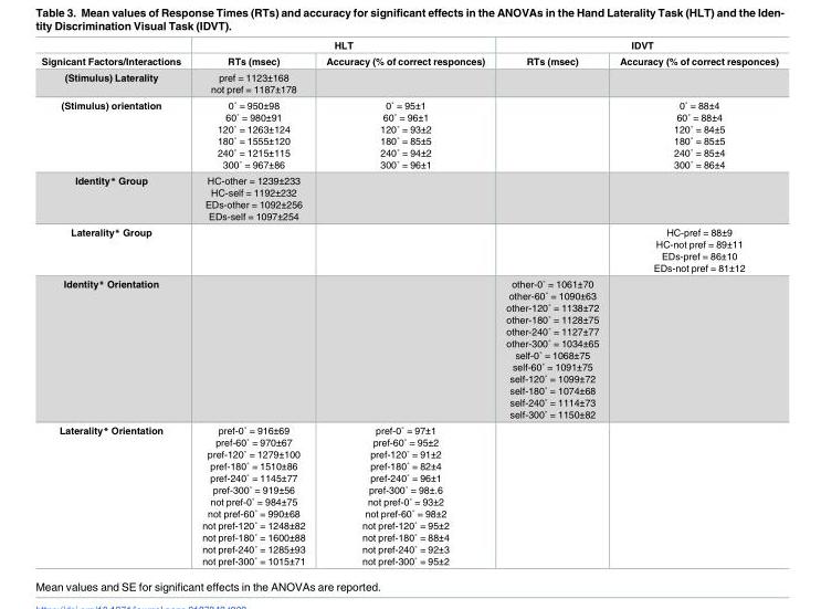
<table><thead><tr><td rowspan="2">Signicant Factors/Interactions</td><td colspan="2">HLT</td><td colspan="2">IDVT</td></tr><tr><td>RTs (msec)</td><td>Accuracy (% of correct responces)</td><td>RTs (msec)</td><td>Accuracy (% of correct responces)</td></tr></thead><tbody><tr><td>(Stimulus) Laterality</td><td>pref = 1123±168 not pref = 1187±178</td><td></td><td></td><td></td></tr><tr><td>(Stimulus) orientation</td><td>0˚ = 950±98 60˚ = 980±91 120˚ = 1263±124 180˚ = 1555±120 240˚ = 1215±115 300˚ = 967±86</td><td>0˚ = 95±1 60˚ = 96±1 120˚ = 93±2 180˚ = 85±5 240˚ = 94±2 300˚ = 96±1</td><td></td><td>0˚ = 88±4 60˚ = 88±4 120˚ = 84±5 180˚ = 85±5 240˚ = 85±4 300˚ = 86±4</td></tr><tr><td>Identity* Group</td><td>HC-other = 1239±233 HC-self = 1192±232 EDs-other = 1092±256 EDs-self = 1097±254</td><td></td><td></td><td></td></tr><tr><td>Laterality* Group</td><td></td><td></td><td></td><td>HC-pref = 88±9 HC-not pref = 89±11 EDs-pref = 86±10 EDs-not pref = 81±12</td></tr><tr><td>Identity* Orientation</td><td></td><td></td><td>other-0˚ = 1061±70 other-60˚ = 1090±63 other-120˚ = 1138±72 other-180˚ = 1128±75 other-240˚ = 1127±77 other-300˚ = 1034±65 self-0˚ = 1068±75 self-60˚ = 1091±75 self-120˚ = 1099±72 self-180˚ = 1074±68 self-240˚ = 1114±73 self-300˚ = 1150±82</td><td></td></tr><tr><td>Laterality* Orientation</td><td>pref-0˚ = 916±69 pref-60˚ = 970±67 pref-120˚ = 1279±100 pref-180˚ = 1510±86 pref-240˚ = 1145±77 pref-300˚ = 919±56 not pref-0˚ = 984±75 not pref-60˚ = 990±68 not pref-120˚ = 1248±82 not pref-180˚ = 1600±88 not pref-240˚ = 1285±93 not pref-300˚ = 1015±71</td><td>pref-0˚ = 97±1 pref-60˚ = 95±2 pref-120˚ = 91±2 pref-180˚ = 82±4 pref-240˚ = 96±1 pref-300˚ = 98±.6 not pref-0˚ = 93±2 not pref-60˚ = 98±2 not pref-120˚ = 95±2 not pref-180˚ = 88±4 not pref-240˚ = 92±3 not pref-300˚ = 95±2</td><td></td><td></td></tr></tbody></table>